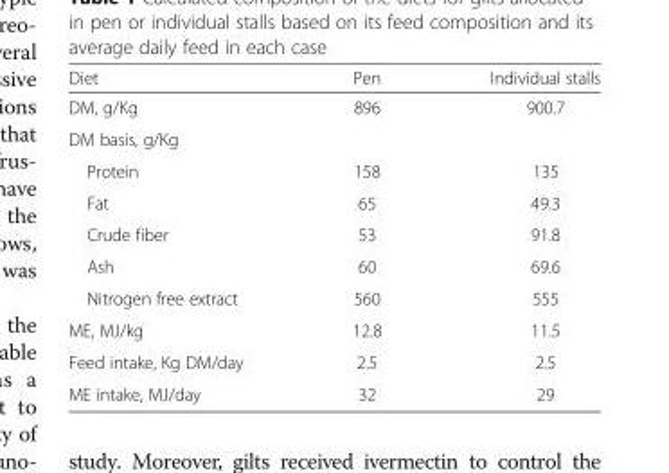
<table><thead><tr><td>Diet</td><td>Pen</td><td>Individual stalls</td></tr></thead><tbody><tr><td>DM, g/Kg</td><td>896</td><td>900.7</td></tr><tr><td colspan="3">DM basis, g/Kg</td></tr><tr><td>Protein</td><td>158</td><td>135</td></tr><tr><td>Fat</td><td>65</td><td>49.3</td></tr><tr><td>Crude fiber</td><td>53</td><td>91.8</td></tr><tr><td>Ash</td><td>60</td><td>69.6</td></tr><tr><td>Nitrogen free extract</td><td>560</td><td>555</td></tr><tr><td>ME, MJ/kg</td><td>12.8</td><td>11.5</td></tr><tr><td>Feed intake, Kg DM/day</td><td>2.5</td><td>2.5</td></tr><tr><td>ME intake, MJ/day</td><td>32</td><td>29</td></tr></tbody></table>